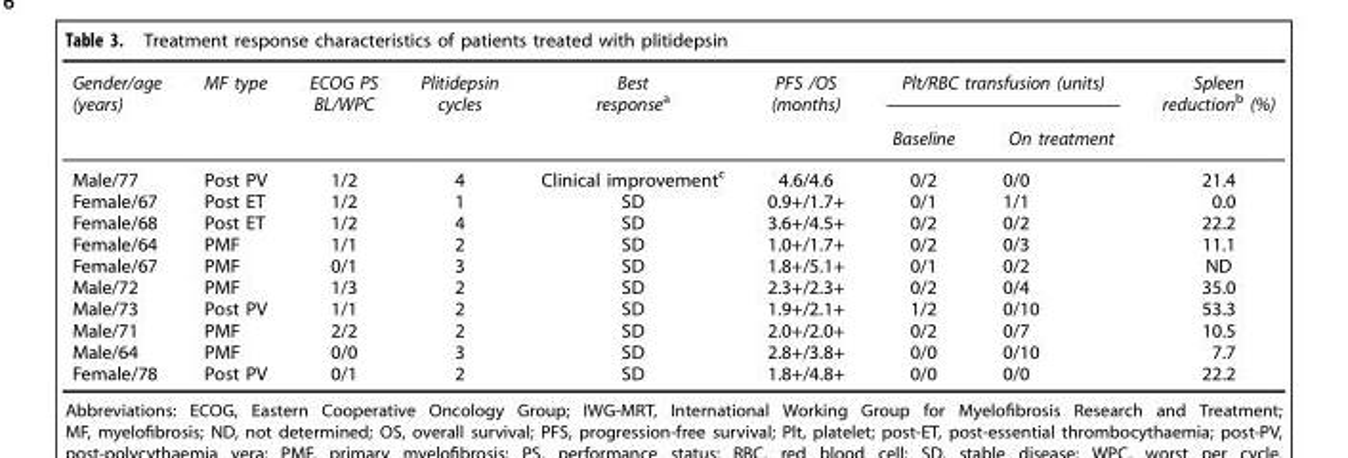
<table><thead><tr><td rowspan="2">Gender/age (years)</td><td rowspan="2">MF type</td><td rowspan="2">ECOG PS BL/WPC</td><td rowspan="2">Plitidepsin cycles</td><td rowspan="2">Best response<sup>a</sup></td><td rowspan="2">PFS /OS (months)</td><td colspan="2">Plt/RBC transfusion (units)</td><td rowspan="2">Spleen reduction<sup>b</sup> (%)</td></tr><tr><td>Baseline</td><td>On treatment</td></tr></thead><tbody><tr><td>Male/77</td><td>Post PV</td><td>1/2</td><td>4</td><td>Clinical improvement<sup>c</sup></td><td>4.6/4.6</td><td>0/2</td><td>0/0</td><td>21.4</td></tr><tr><td>Female/67</td><td>Post ET</td><td>1/2</td><td>1</td><td>SD</td><td>0.9+/1.7+</td><td>0/1</td><td>1/1</td><td>0.0</td></tr><tr><td>Female/68</td><td>Post ET</td><td>1/2</td><td>4</td><td>SD</td><td>3.6+/4.5+</td><td>0/2</td><td>0/2</td><td>22.2</td></tr><tr><td>Female/64</td><td>PMF</td><td>1/1</td><td>2</td><td>SD</td><td>1.0+/1.7+</td><td>0/2</td><td>0/3</td><td>11.1</td></tr><tr><td>Female/67</td><td>PMF</td><td>0/1</td><td>3</td><td>SD</td><td>1.8+/5.1+</td><td>0/1</td><td>0/2</td><td>ND</td></tr><tr><td>Male/72</td><td>PMF</td><td>1/3</td><td>2</td><td>SD</td><td>2.3+/2.3+</td><td>0/2</td><td>0/4</td><td>35.0</td></tr><tr><td>Male/73</td><td>Post PV</td><td>1/1</td><td>2</td><td>SD</td><td>1.9+/2.1+</td><td>1/2</td><td>0/10</td><td>53.3</td></tr><tr><td>Male/71</td><td>PMF</td><td>2/2</td><td>2</td><td>SD</td><td>2.0+/2.0+</td><td>0/2</td><td>0/7</td><td>10.5</td></tr><tr><td>Male/64</td><td>PMF</td><td>0/0</td><td>3</td><td>SD</td><td>2.8+/3.8+</td><td>0/0</td><td>0/10</td><td>7.7</td></tr><tr><td>Female/78</td><td>Post PV</td><td>0/1</td><td>2</td><td>SD</td><td>1.8+/4.8+</td><td>0/0</td><td>0/0</td><td>22.2</td></tr></tbody></table>